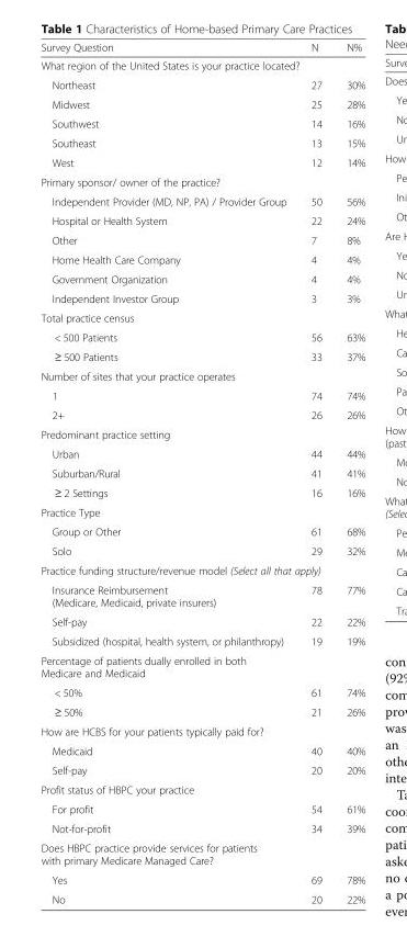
<table><thead><tr><td>Survey Question</td><td>N</td><td>N%</td></tr></thead><tbody><tr><td colspan="3">What region of the United States is your practice located?</td></tr><tr><td>Northeast</td><td>27</td><td>30%</td></tr><tr><td>Midwest</td><td>25</td><td>28%</td></tr><tr><td>Southwest</td><td>14</td><td>16%</td></tr><tr><td>Southeast</td><td>13</td><td>15%</td></tr><tr><td>West</td><td>12</td><td>14%</td></tr><tr><td colspan="3">Primary sponsor/ owner of the practice?</td></tr><tr><td>Independent Provider (MD, NP, PA) / Provider Group</td><td>50</td><td>56%</td></tr><tr><td>Hospital or Health System</td><td>22</td><td>24%</td></tr><tr><td>Other</td><td>7</td><td>8%</td></tr><tr><td>Home Health Care Company</td><td>4</td><td>4%</td></tr><tr><td>Government Organization</td><td>4</td><td>4%</td></tr><tr><td>Independent Investor Group</td><td>3</td><td>3%</td></tr><tr><td colspan="3">Total practice census</td></tr><tr><td>&lt; 500 Patients</td><td>56</td><td>63%</td></tr><tr><td>≥ 500 Patients</td><td>33</td><td>37%</td></tr><tr><td colspan="3">Number of sites that your practice operates</td></tr><tr><td>1</td><td>74</td><td>74%</td></tr><tr><td>2+</td><td>26</td><td>26%</td></tr><tr><td colspan="3">Predominant practice setting</td></tr><tr><td>Urban</td><td>44</td><td>44%</td></tr><tr><td>Suburban/Rural</td><td>41</td><td>41%</td></tr><tr><td>≥ 2 Settings</td><td>16</td><td>16%</td></tr><tr><td colspan="3">Practice Type</td></tr><tr><td>Group or Other</td><td>61</td><td>68%</td></tr><tr><td>Solo</td><td>29</td><td>32%</td></tr><tr><td colspan="3">Practice funding structure/revenue model (Select all that apply)</td></tr><tr><td>Insurance Reimbursement (Medicare, Medicaid, private insurers)</td><td>78</td><td>77%</td></tr><tr><td>Self-pay</td><td>22</td><td>22%</td></tr><tr><td>Subsidized (hospital, health system, or philanthropy)</td><td>19</td><td>19%</td></tr><tr><td colspan="3">Percentage of patients dually enrolled in both Medicare and Medicaid</td></tr><tr><td>&lt; 50%</td><td>61</td><td>74%</td></tr><tr><td>≥ 50%</td><td>21</td><td>26%</td></tr><tr><td colspan="3">How are HCBS for your patients typically paid for?</td></tr><tr><td>Medicaid</td><td>40</td><td>40%</td></tr><tr><td>Self-pay</td><td>20</td><td>20%</td></tr><tr><td colspan="3">Profit status of HBPC your practice</td></tr><tr><td>For profit</td><td>54</td><td>61%</td></tr><tr><td>Not-for-profit</td><td>34</td><td>39%</td></tr><tr><td colspan="3">Does HBPC practice provide services for patients with primary Medicare Managed Care?</td></tr><tr><td>Yes</td><td>69</td><td>78%</td></tr><tr><td>No</td><td>20</td><td>22%</td></tr></tbody></table>